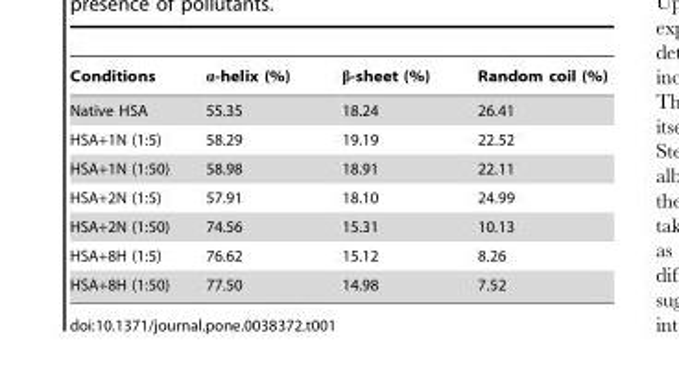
<table><thead><tr><td>Conditions</td><td>α-helix (%)</td><td>β-sheet (%)</td><td>Random coil (%)</td></tr></thead><tbody><tr><td>Native HSA</td><td>55.35</td><td>18.24</td><td>26.41</td></tr><tr><td>HSA+1N (1:5)</td><td>58.29</td><td>19.19</td><td>22.52</td></tr><tr><td>HSA+1N (1:50)</td><td>58.98</td><td>18.91</td><td>22.11</td></tr><tr><td>HSA+2N (1:5)</td><td>57.91</td><td>18.10</td><td>24.99</td></tr><tr><td>HSA+2N (1:50)</td><td>74.56</td><td>15.31</td><td>10.13</td></tr><tr><td>HSA+8H (1:5)</td><td>76.62</td><td>15.12</td><td>8.26</td></tr><tr><td>HSA+8H (1:50)</td><td>77.50</td><td>14.98</td><td>7.52</td></tr></tbody></table>